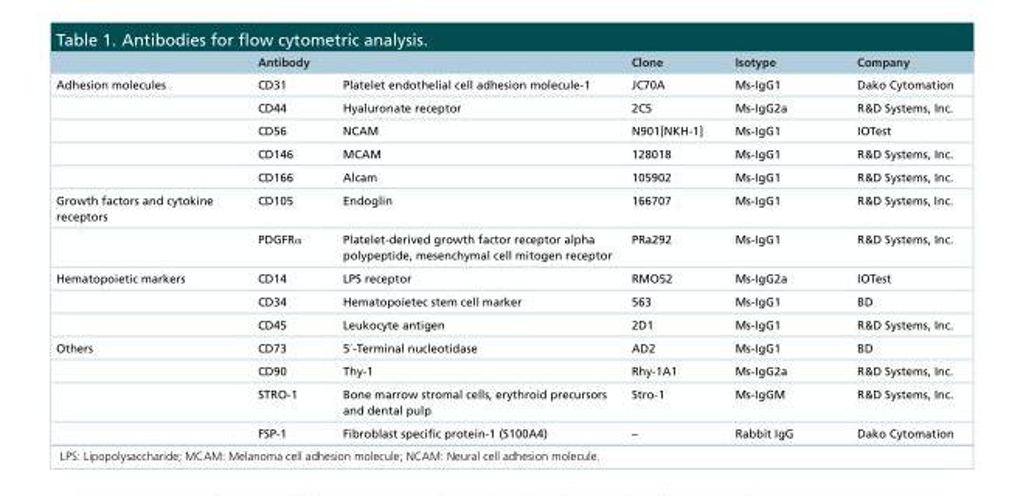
<table><thead><tr><td rowspan="2">Adhesion molecules</td><td colspan="2">Antibody</td><td rowspan="2">Clone JC70A</td><td rowspan="2">Isotype Ms-IgG1</td><td rowspan="2">Company Dako Cytomation</td></tr><tr><td>CD31</td><td>Platelet endothelial cell adhesion molecule-1</td></tr></thead><tbody><tr><td></td><td>CD44</td><td>Hyaluronate receptor</td><td>2C5</td><td>Ms-IgG2a</td><td>R&amp;D Systems, Inc.</td></tr><tr><td></td><td>CD56</td><td>NCAM</td><td>N901[NKH-1]</td><td>Ms-IgG1</td><td>IOTest</td></tr><tr><td></td><td>CD146</td><td>MCAM</td><td>128018</td><td>Ms-IgG1</td><td>R&amp;D Systems, Inc.</td></tr><tr><td></td><td>CD166</td><td>Alcam</td><td>105902</td><td>Ms-IgG1</td><td>R&amp;D Systems, Inc.</td></tr><tr><td rowspan="2">Growth factors and cytokine receptors</td><td>CD105</td><td>Endoglin</td><td>166707</td><td>Ms-IgG1</td><td>R&amp;D Systems, Inc.</td></tr><tr><td>PDGFRα</td><td>Platelet-derived growth factor receptor alpha polypeptide, mesenchymal cell mitogen receptor</td><td>PRa292</td><td>Ms-IgG1</td><td>R&amp;D Systems, Inc.</td></tr><tr><td rowspan="3">Hematopoietic markers</td><td>CD14</td><td>LPS receptor</td><td>RMO52</td><td>Ms-IgG2a</td><td>IOTest</td></tr><tr><td>CD34</td><td>Hematopoietec stem cell marker</td><td>563</td><td>Ms-IgG1</td><td>BD</td></tr><tr><td>CD45</td><td>Leukocyte antigen</td><td>2D1</td><td>Ms-IgG1</td><td>R&amp;D Systems, Inc.</td></tr><tr><td rowspan="4">Others</td><td>CD73</td><td>5′-Terminal nucleotidase</td><td>AD2</td><td>Ms-IgG1</td><td>BD</td></tr><tr><td>CD90</td><td>Thy-1</td><td>Rhy-1A1</td><td>Ms-IgG2a</td><td>R&amp;D Systems, Inc.</td></tr><tr><td>STRO-1</td><td>Bone marrow stromal cells, erythroid precursors and dental pulp</td><td>Stro-1</td><td>Ms-IgGM</td><td>R&amp;D Systems, Inc.</td></tr><tr><td>FSP-1</td><td>Fibroblast specific protein-1 (S100A4)</td><td>–</td><td>Rabbit IgG</td><td>Dako Cytomation</td></tr></tbody></table>